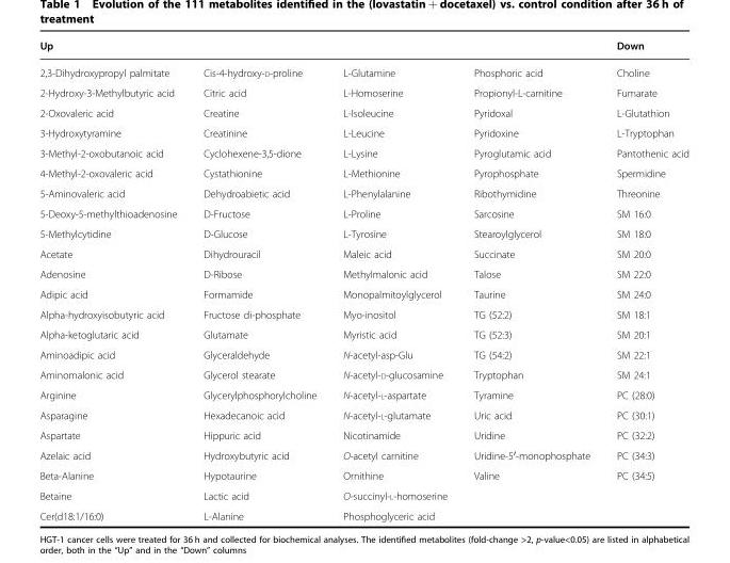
<table><thead><tr><td colspan="4">Up</td><td rowspan="2">Down Choline</td></tr><tr><td>2,3-Dihydroxypropyl palmitate</td><td>Cis-4-hydroxy-D-proline</td><td>L-Glutamine</td><td>Phosphoric acid</td></tr></thead><tbody><tr><td>2-Hydroxy-3-Methylbutyric acid</td><td>Citric acid</td><td>L-Homoserine</td><td>Propionyl-L-carnitine</td><td>Fumarate</td></tr><tr><td>2-Oxovaleric acid</td><td>Creatine</td><td>L-Isoleucine</td><td>Pyridoxal</td><td>L-Glutathion</td></tr><tr><td>3-Hydroxytyramine</td><td>Creatinine</td><td>L-Leucine</td><td>Pyridoxine</td><td>L-Tryptophan</td></tr><tr><td>3-Methyl-2-oxobutanoic acid</td><td>Cyclohexene-3,5-dione</td><td>L-Lysine</td><td>Pyroglutamic acid</td><td>Pantothenic acid</td></tr><tr><td>4-Methyl-2-oxovaleric acid</td><td>Cystathionine</td><td>L-Methionine</td><td>Pyrophosphate</td><td>Spermidine</td></tr><tr><td>5-Aminovaleric acid</td><td>Dehydroabietic acid</td><td>L-Phenylalanine</td><td>Ribothymidine</td><td>Threonine</td></tr><tr><td>5-Deoxy-5-methylthioadenosine</td><td>D-Fructose</td><td>L-Proline</td><td>Sarcosine</td><td>SM 16:0</td></tr><tr><td>5-Methylcytidine</td><td>D-Glucose</td><td>L-Tyrosine</td><td>Stearoylglycerol</td><td>SM 18:0</td></tr><tr><td>Acetate</td><td>Dihydrouracil</td><td>Maleic acid</td><td>Succinate</td><td>SM 20:0</td></tr><tr><td>Adenosine</td><td>D-Ribose</td><td>Methylmalonic acid</td><td>Talose</td><td>SM 22:0</td></tr><tr><td>Adipic acid</td><td>Formamide</td><td>Monopalmitoylglycerol</td><td>Taurine</td><td>SM 24:0</td></tr><tr><td>Alpha-hydroxyisobutyric acid</td><td>Fructose di-phosphate</td><td>Myo-inositol</td><td>TG (52:2)</td><td>SM 18:1</td></tr><tr><td>Alpha-ketoglutaric acid</td><td>Glutamate</td><td>Myristic acid</td><td>TG (52:3)</td><td>SM 20:1</td></tr><tr><td>Aminoadipic acid</td><td>Glyceraldehyde</td><td>N-acetyl-asp-Glu</td><td>TG (54:2)</td><td>SM 22:1</td></tr><tr><td>Aminomalonic acid</td><td>Glycerol stearate</td><td>N-acetyl-D-glucosamine</td><td>Tryptophan</td><td>SM 24:1</td></tr><tr><td>Arginine</td><td>Glycerylphosphorylcholine</td><td>N-acetyl-L-aspartate</td><td>Tyramine</td><td>PC (28:0)</td></tr><tr><td>Asparagine</td><td>Hexadecanoic acid</td><td>N-acetyl-L-glutamate</td><td>Uric acid</td><td>PC (30:1)</td></tr><tr><td>Aspartate</td><td>Hippuric acid</td><td>Nicotinamide</td><td>Uridine</td><td>PC (32:2)</td></tr><tr><td>Azelaic acid</td><td>Hydroxybutyric acid</td><td>O-acetyl carnitine</td><td>Uridine-5′-monophosphate</td><td>PC (34:3)</td></tr><tr><td>Beta-Alanine</td><td>Hypotaurine</td><td>Ornithine</td><td>Valine</td><td>PC (34:5)</td></tr><tr><td>Betaine</td><td>Lactic acid</td><td>O-succinyl-L-homoserine</td><td></td><td></td></tr><tr><td>Cer(d18:1/16:0)</td><td>L-Alanine</td><td>Phosphoglyceric acid</td><td></td><td></td></tr></tbody></table>